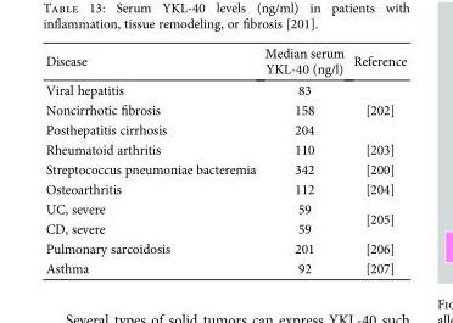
<table><thead><tr><td>Disease</td><td>Median serum YKL-40 (ng/l)</td><td>Reference</td></tr></thead><tbody><tr><td>Viral hepatitis</td><td>83</td><td rowspan="3">[202]</td></tr><tr><td>Noncirrhotic fibrosis</td><td>158</td></tr><tr><td>Posthepatitis cirrhosis</td><td>204</td></tr><tr><td>Rheumatoid arthritis</td><td>110</td><td>[203]</td></tr><tr><td>Streptococcus pneumoniae bacteremia</td><td>342</td><td>[200]</td></tr><tr><td>Osteoarthritis</td><td>112</td><td>[204]</td></tr><tr><td>UC, severe</td><td>59</td><td rowspan="2">[205]</td></tr><tr><td>CD, severe</td><td>59</td></tr><tr><td>Pulmonary sarcoidosis</td><td>201</td><td>[206]</td></tr><tr><td>Asthma</td><td>92</td><td>[207]</td></tr></tbody></table>